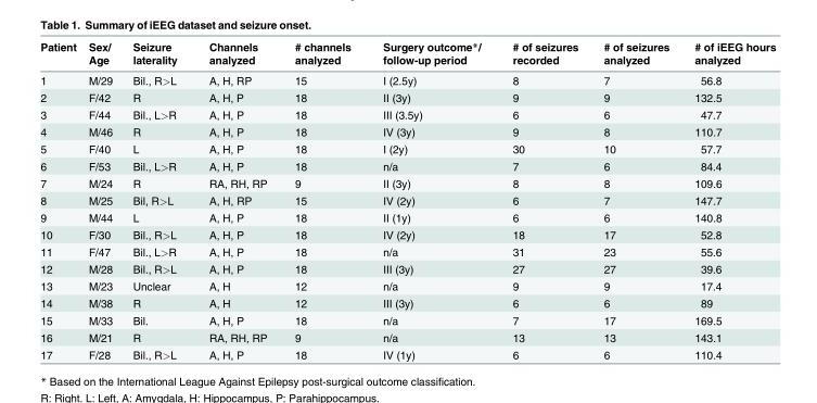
<table><thead><tr><td>Patient</td><td>Sex/ Age</td><td>Seizure laterality</td><td>Channels analyzed</td><td># channels analyzed</td><td>Surgery outcome*/ follow-up period</td><td># of seizures recorded</td><td># of seizures analyzed</td><td># of iEEG hours analyzed</td></tr></thead><tbody><tr><td>1</td><td>M/29</td><td>Bil., R&gt;L</td><td>A, H, RP</td><td>15</td><td>I (2.5y)</td><td>8</td><td>7</td><td>56.8</td></tr><tr><td>2</td><td>F/42</td><td>R</td><td>A, H, P</td><td>18</td><td>II (3y)</td><td>9</td><td>9</td><td>132.5</td></tr><tr><td>3</td><td>F/44</td><td>Bil., L&gt;R</td><td>A, H, P</td><td>18</td><td>III (3.5y)</td><td>6</td><td>6</td><td>47.7</td></tr><tr><td>4</td><td>M/46</td><td>R</td><td>A, H, P</td><td>18</td><td>IV (3y)</td><td>9</td><td>8</td><td>110.7</td></tr><tr><td>5</td><td>F/40</td><td>L</td><td>A, H, P</td><td>18</td><td>I (2y)</td><td>30</td><td>10</td><td>57.7</td></tr><tr><td>6</td><td>F/53</td><td>Bil., L&gt;R</td><td>A, H, P</td><td>18</td><td>n/a</td><td>7</td><td>6</td><td>84.4</td></tr><tr><td>7</td><td>M/24</td><td>R</td><td>RA, RH, RP</td><td>9</td><td>II (3y)</td><td>8</td><td>8</td><td>109.6</td></tr><tr><td>8</td><td>M/25</td><td>Bil, R&gt;L</td><td>A, H, RP</td><td>15</td><td>IV (2y)</td><td>6</td><td>7</td><td>147.7</td></tr><tr><td>9</td><td>M/44</td><td>L</td><td>A, H, P</td><td>18</td><td>II (1y)</td><td>6</td><td>6</td><td>140.8</td></tr><tr><td>10</td><td>F/30</td><td>Bil., R&gt;L</td><td>A, H, P</td><td>18</td><td>IV (2y)</td><td>18</td><td>17</td><td>52.8</td></tr><tr><td>11</td><td>F/47</td><td>Bil., L&gt;R</td><td>A, H, P</td><td>18</td><td>n/a</td><td>31</td><td>23</td><td>55.6</td></tr><tr><td>12</td><td>M/28</td><td>Bil., R&gt;L</td><td>A, H, P</td><td>18</td><td>III (3y)</td><td>27</td><td>27</td><td>39.6</td></tr><tr><td>13</td><td>M/23</td><td>Unclear</td><td>A, H</td><td>12</td><td>n/a</td><td>9</td><td>9</td><td>17.4</td></tr><tr><td>14</td><td>M/38</td><td>R</td><td>A, H</td><td>12</td><td>III (3y)</td><td>6</td><td>6</td><td>89</td></tr><tr><td>15</td><td>M/33</td><td>Bil.</td><td>A, H, P</td><td>18</td><td>n/a</td><td>7</td><td>17</td><td>169.5</td></tr><tr><td>16</td><td>M/21</td><td>R</td><td>RA, RH, RP</td><td>9</td><td>n/a</td><td>13</td><td>13</td><td>143.1</td></tr><tr><td>17</td><td>F/28</td><td>Bil., R&gt;L</td><td>A, H, P</td><td>18</td><td>IV (1y)</td><td>6</td><td>6</td><td>110.4</td></tr></tbody></table>